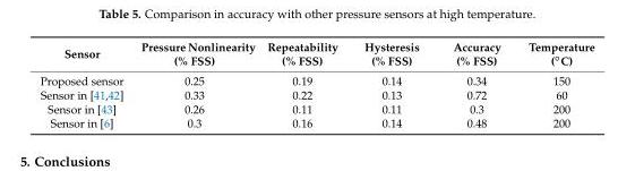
<table><thead><tr><td>Sensor</td><td>Pressure Nonlinearity (% FSS)</td><td>Repeatability (% FSS)</td><td>Hysteresis (% FSS)</td><td>Accuracy (% FSS)</td><td>Temperature (◦C)</td></tr></thead><tbody><tr><td>Proposed sensor</td><td>0.25</td><td>0.19</td><td>0.14</td><td>0.34</td><td>150</td></tr><tr><td>Sensor in [41,42]</td><td>0.33</td><td>0.22</td><td>0.13</td><td>0.72</td><td>60</td></tr><tr><td>Sensor in [43]</td><td>0.26</td><td>0.11</td><td>0.11</td><td>0.3</td><td>200</td></tr><tr><td>Sensor in [6]</td><td>0.3</td><td>0.16</td><td>0.14</td><td>0.48</td><td>200</td></tr></tbody></table>